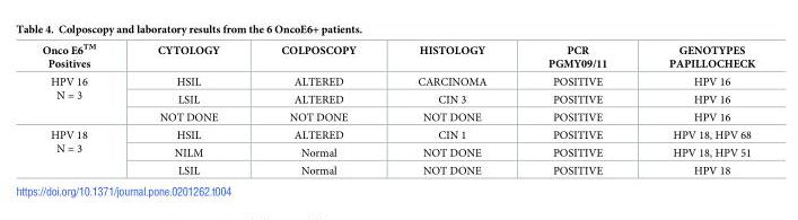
<table><thead><tr><td>Onco E6<sup>TM</sup> Positives</td><td>CYTOLOGY</td><td>COLPOSCOPY</td><td>HISTOLOGY</td><td>PCR PGMY09/11</td><td>GENOTYPES PAPILLOCHECK</td></tr></thead><tbody><tr><td rowspan="3">HPV 16 N = 3</td><td>HSIL</td><td>ALTERED</td><td>CARCINOMA</td><td>POSITIVE</td><td>HPV 16</td></tr><tr><td>LSIL</td><td>ALTERED</td><td>CIN 3</td><td>POSITIVE</td><td>HPV 16</td></tr><tr><td>NOT DONE</td><td>NOT DONE</td><td>NOT DONE</td><td>POSITIVE</td><td>HPV 16</td></tr><tr><td rowspan="3">HPV 18 N = 3</td><td>HSIL</td><td>ALTERED</td><td>CIN 1</td><td>POSITIVE</td><td>HPV 18, HPV 68</td></tr><tr><td>NILM</td><td>Normal</td><td>NOT DONE</td><td>POSITIVE</td><td>HPV 18, HPV 51</td></tr><tr><td>LSIL</td><td>Normal</td><td>NOT DONE</td><td>POSITIVE</td><td>HPV 18</td></tr></tbody></table>